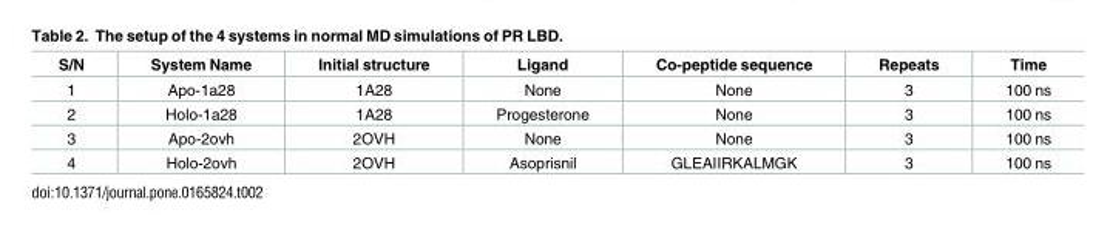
<table><thead><tr><td>S/N</td><td>System Name</td><td>Initial structure</td><td>Ligand</td><td>Co-peptide sequence</td><td>Repeats</td><td>Time</td></tr></thead><tbody><tr><td>1</td><td>Apo-1a28</td><td>1A28</td><td>None</td><td>None</td><td>3</td><td>100 ns</td></tr><tr><td>2</td><td>Holo-1a28</td><td>1A28</td><td>Progesterone</td><td>None</td><td>3</td><td>100 ns</td></tr><tr><td>3</td><td>Apo-2ovh</td><td>2OVH</td><td>None</td><td>None</td><td>3</td><td>100 ns</td></tr><tr><td>4</td><td>Holo-2ovh</td><td>2OVH</td><td>Asoprisnil</td><td>GLEAIIRKALMGK</td><td>3</td><td>100 ns</td></tr></tbody></table>